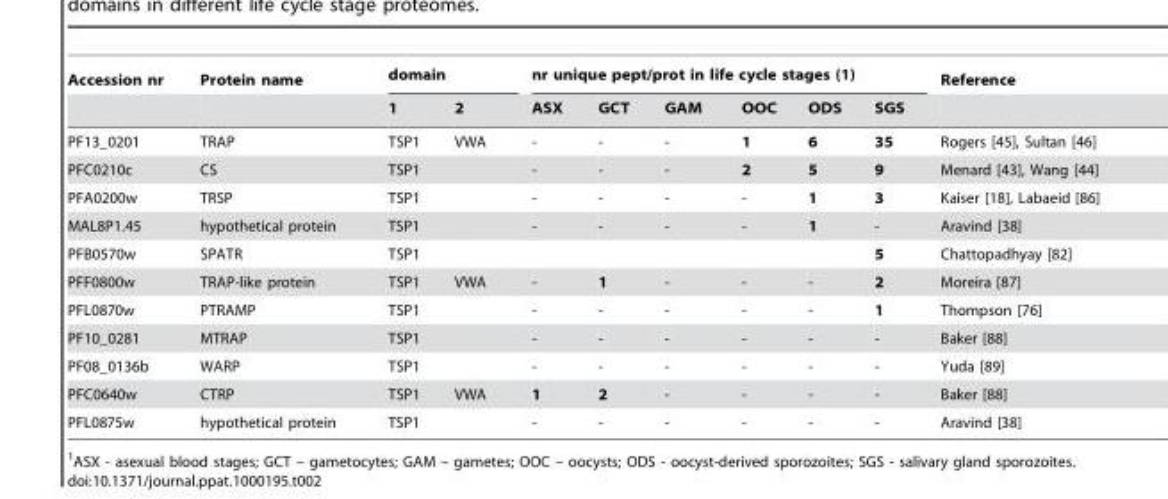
<table><thead><tr><td rowspan="2">Accession nr</td><td rowspan="2">Protein name</td><td colspan="2">domain</td><td colspan="6">nr unique pept/prot in life cycle stages (1)</td><td rowspan="2">Reference</td></tr><tr><td>1</td><td>2</td><td>ASX</td><td>GCT</td><td>GAM</td><td>OOC</td><td>ODS</td><td>SGS</td></tr></thead><tbody><tr><td>PF13_0201</td><td>TRAP</td><td>TSP1</td><td>VWA</td><td>-</td><td>-</td><td>-</td><td>1</td><td>6</td><td>35</td><td>Rogers [45], Sultan [46]</td></tr><tr><td>PFC0210c</td><td>CS</td><td>TSP1</td><td></td><td>-</td><td>-</td><td>-</td><td>2</td><td>5</td><td>9</td><td>Menard [43], Wang [44]</td></tr><tr><td>PFA0200w</td><td>TRSP</td><td>TSP1</td><td></td><td>-</td><td>-</td><td>-</td><td>-</td><td>1</td><td>3</td><td>Kaiser [18], Labaeid [86]</td></tr><tr><td>MAL8P1.45</td><td>hypothetical protein</td><td>TSP1</td><td></td><td>-</td><td>-</td><td>-</td><td>-</td><td>1</td><td>-</td><td>Aravind [38]</td></tr><tr><td>PFB0570w</td><td>SPATR</td><td>TSP1</td><td></td><td></td><td></td><td></td><td></td><td></td><td>5</td><td>Chattopadhyay [82]</td></tr><tr><td>PFF0800w</td><td>TRAP-like protein</td><td>TSP1</td><td>VWA</td><td>-</td><td>1</td><td>-</td><td>-</td><td>-</td><td>2</td><td>Moreira [87]</td></tr><tr><td>PFL0870w</td><td>PTRAMP</td><td>TSP1</td><td></td><td>-</td><td>-</td><td>-</td><td>-</td><td>-</td><td>1</td><td>Thompson [76]</td></tr><tr><td>PF10_0281</td><td>MTRAP</td><td>TSP1</td><td></td><td>-</td><td>-</td><td>-</td><td>-</td><td>-</td><td>-</td><td>Baker [88]</td></tr><tr><td>PF08_0136b</td><td>WARP</td><td>TSP1</td><td></td><td>-</td><td>-</td><td>-</td><td>-</td><td>-</td><td>-</td><td>Yuda [89]</td></tr><tr><td>PFC0640w</td><td>CTRP</td><td>TSP1</td><td>VWA</td><td>1</td><td>2</td><td>-</td><td>-</td><td>-</td><td>-</td><td>Baker [88]</td></tr><tr><td>PFL0875w</td><td>hypothetical protein</td><td>TSP1</td><td></td><td>-</td><td>-</td><td>-</td><td>-</td><td>-</td><td>-</td><td>Aravind [38]</td></tr></tbody></table>